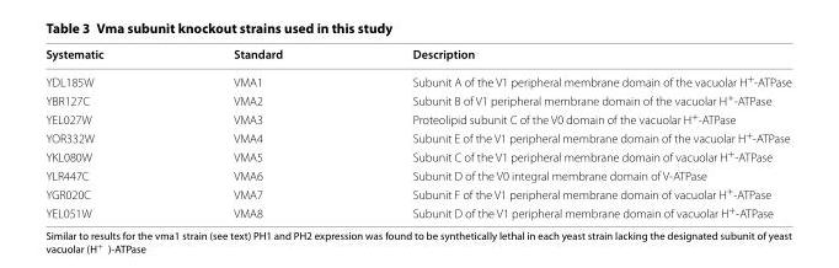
<table><thead><tr><td>Systematic</td><td>Standard</td><td>Description</td></tr></thead><tbody><tr><td>YDL185W</td><td>VMA1</td><td>Subunit A of the V1 peripheral membrane domain of the vacuolar H<sup>+</sup>-ATPase</td></tr><tr><td>YBR127C</td><td>VMA2</td><td>Subunit B of V1 peripheral membrane domain of the vacuolar H<sup>+</sup>-ATPase</td></tr><tr><td>YEL027W</td><td>VMA3</td><td>Proteolipid subunit C of the V0 domain of the vacuolar H<sup>+</sup>-ATPase</td></tr><tr><td>YOR332W</td><td>VMA4</td><td>Subunit E of the V1 peripheral membrane domain of the vacuolar H<sup>+</sup>-ATPase</td></tr><tr><td>YKL080W</td><td>VMA5</td><td>Subunit C of the V1 peripheral membrane domain of vacuolar H<sup>+</sup>-ATPase</td></tr><tr><td>YLR447C</td><td>VMA6</td><td>Subunit D of the V0 integral membrane domain of V-ATPase</td></tr><tr><td>YGR020C</td><td>VMA7</td><td>Subunit F of the V1 peripheral membrane domain of vacuolar H<sup>+</sup>-ATPase</td></tr><tr><td>YEL051W</td><td>VMA8</td><td>Subunit D of the V1 peripheral membrane domain of vacuolar H<sup>+</sup>-ATPase</td></tr></tbody></table>